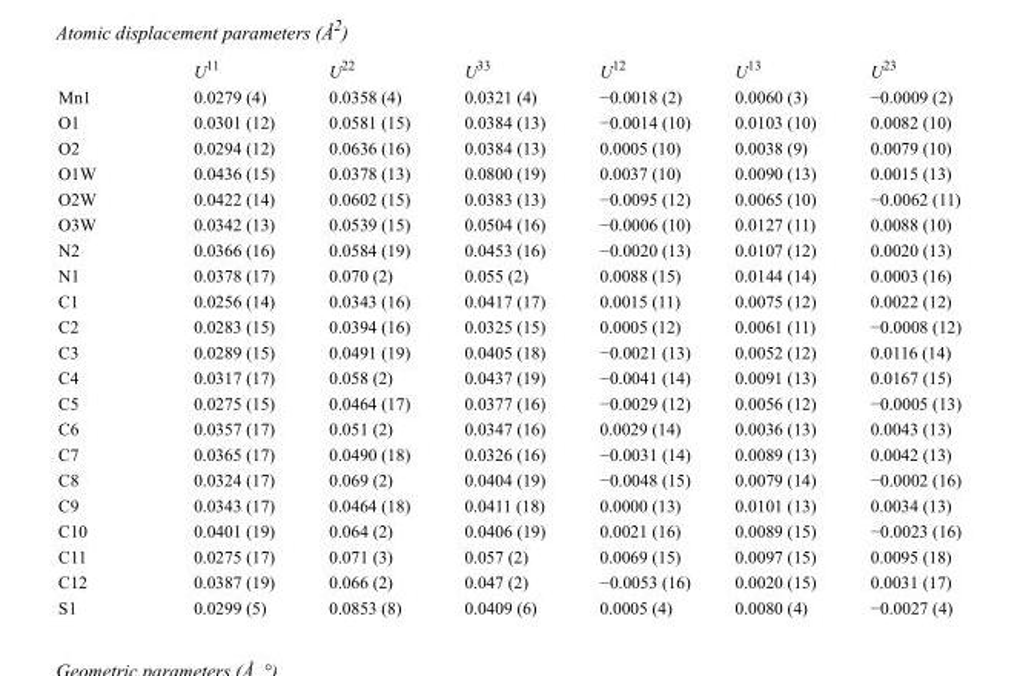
<table><thead><tr><td></td><td>U<sup>11</sup></td><td>U<sup>22</sup></td><td>U<sup>33</sup></td><td>U<sup>12</sup></td><td>U<sup>13</sup></td><td>U<sup>23</sup></td></tr></thead><tbody><tr><td>Mn1</td><td>0.0279 (4)</td><td>0.0358 (4)</td><td>0.0321 (4)</td><td>−0.0018 (2)</td><td>0.0060 (3)</td><td>−0.0009 (2)</td></tr><tr><td>O1</td><td>0.0301 (12)</td><td>0.0581 (15)</td><td>0.0384 (13)</td><td>−0.0014 (10)</td><td>0.0103 (10)</td><td>0.0082 (10)</td></tr><tr><td>O2</td><td>0.0294 (12)</td><td>0.0636 (16)</td><td>0.0384 (13)</td><td>0.0005 (10)</td><td>0.0038 (9)</td><td>0.0079 (10)</td></tr><tr><td>O1W</td><td>0.0436 (15)</td><td>0.0378 (13)</td><td>0.0800 (19)</td><td>0.0037 (10)</td><td>0.0090 (13)</td><td>0.0015 (13)</td></tr><tr><td>O2W</td><td>0.0422 (14)</td><td>0.0602 (15)</td><td>0.0383 (13)</td><td>−0.0095 (12)</td><td>0.0065 (10)</td><td>−0.0062 (11)</td></tr><tr><td>O3W</td><td>0.0342 (13)</td><td>0.0539 (15)</td><td>0.0504 (16)</td><td>−0.0006 (10)</td><td>0.0127 (11)</td><td>0.0088 (10)</td></tr><tr><td>N2</td><td>0.0366 (16)</td><td>0.0584 (19)</td><td>0.0453 (16)</td><td>−0.0020 (13)</td><td>0.0107 (12)</td><td>0.0020 (13)</td></tr><tr><td>N1</td><td>0.0378 (17)</td><td>0.070 (2)</td><td>0.055 (2)</td><td>0.0088 (15)</td><td>0.0144 (14)</td><td>0.0003 (16)</td></tr><tr><td>C1</td><td>0.0256 (14)</td><td>0.0343 (16)</td><td>0.0417 (17)</td><td>0.0015 (11)</td><td>0.0075 (12)</td><td>0.0022 (12)</td></tr><tr><td>C2</td><td>0.0283 (15)</td><td>0.0394 (16)</td><td>0.0325 (15)</td><td>0.0005 (12)</td><td>0.0061 (11)</td><td>−0.0008 (12)</td></tr><tr><td>C3</td><td>0.0289 (15)</td><td>0.0491 (19)</td><td>0.0405 (18)</td><td>−0.0021 (13)</td><td>0.0052 (12)</td><td>0.0116 (14)</td></tr><tr><td>C4</td><td>0.0317 (17)</td><td>0.058 (2)</td><td>0.0437 (19)</td><td>−0.0041 (14)</td><td>0.0091 (13)</td><td>0.0167 (15)</td></tr><tr><td>C5</td><td>0.0275 (15)</td><td>0.0464 (17)</td><td>0.0377 (16)</td><td>−0.0029 (12)</td><td>0.0056 (12)</td><td>−0.0005 (13)</td></tr><tr><td>C6</td><td>0.0357 (17)</td><td>0.051 (2)</td><td>0.0347 (16)</td><td>0.0029 (14)</td><td>0.0036 (13)</td><td>0.0043 (13)</td></tr><tr><td>C7</td><td>0.0365 (17)</td><td>0.0490 (18)</td><td>0.0326 (16)</td><td>−0.0031 (14)</td><td>0.0089 (13)</td><td>0.0042 (13)</td></tr><tr><td>C8</td><td>0.0324 (17)</td><td>0.069 (2)</td><td>0.0404 (19)</td><td>−0.0048 (15)</td><td>0.0079 (14)</td><td>−0.0002 (16)</td></tr><tr><td>C9</td><td>0.0343 (17)</td><td>0.0464 (18)</td><td>0.0411 (18)</td><td>0.0000 (13)</td><td>0.0101 (13)</td><td>0.0034 (13)</td></tr><tr><td>C10</td><td>0.0401 (19)</td><td>0.064 (2)</td><td>0.0406 (19)</td><td>0.0021 (16)</td><td>0.0089 (15)</td><td>−0.0023 (16)</td></tr><tr><td>C11</td><td>0.0275 (17)</td><td>0.071 (3)</td><td>0.057 (2)</td><td>0.0069 (15)</td><td>0.0097 (15)</td><td>0.0095 (18)</td></tr><tr><td>C12</td><td>0.0387 (19)</td><td>0.066 (2)</td><td>0.047 (2)</td><td>−0.0053 (16)</td><td>0.0020 (15)</td><td>0.0031 (17)</td></tr><tr><td>S1</td><td>0.0299 (5)</td><td>0.0853 (8)</td><td>0.0409 (6)</td><td>0.0005 (4)</td><td>0.0080 (4)</td><td>−0.0027 (4)</td></tr></tbody></table>